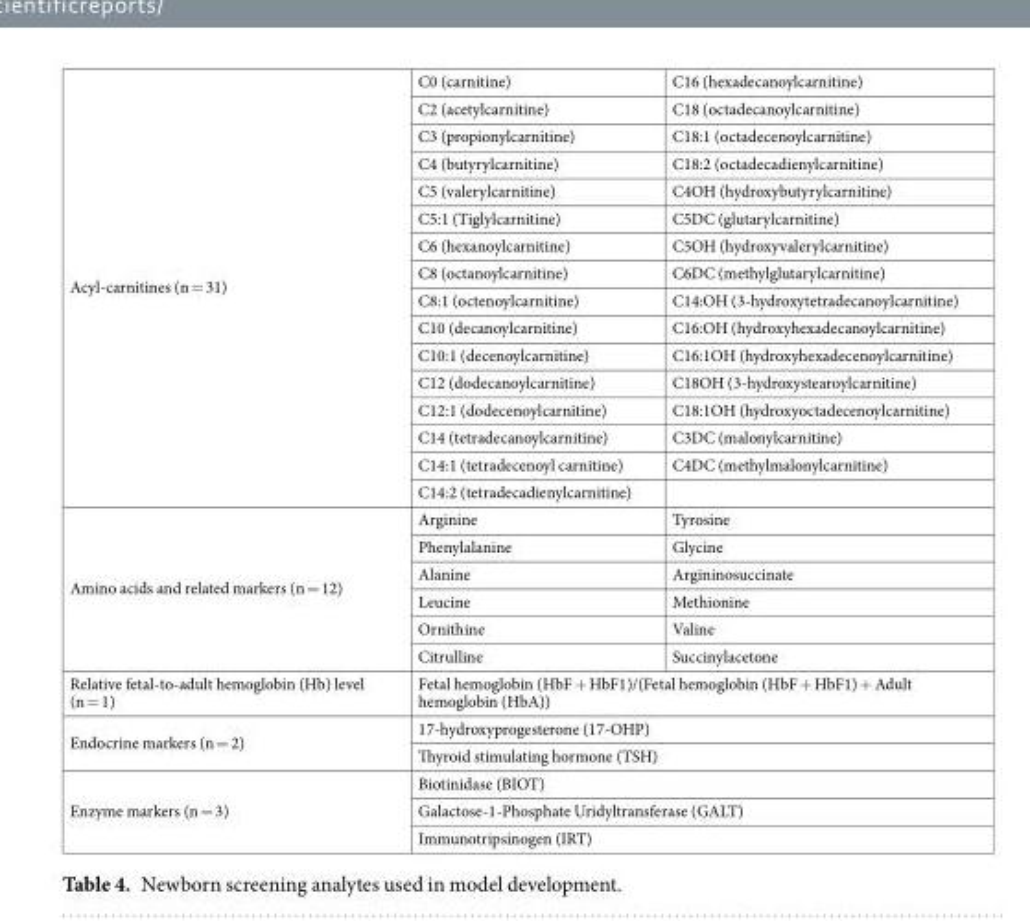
<table><tbody><tr><td rowspan="16">Acyl-carnitines (n = 31)</td><td>C0 (carnitine)</td><td>C16 (hexadecanoylcarnitine)</td></tr><tr><td>C2 (acetylcarnitine)</td><td>C18 (octadecanoylcarnitine)</td></tr><tr><td>C3 (propionylcarnitine)</td><td>C18:1 (octadecenoylcarnitine)</td></tr><tr><td>C4 (butyrylcarnitine)</td><td>C18:2 (octadecadienylcarnitine)</td></tr><tr><td>C5 (valerylcarnitine)</td><td>C4OH (hydroxybutyrylcarnitine)</td></tr><tr><td>C5:1 (Tiglylcarnitine)</td><td>C5DC (glutarylcarnitine)</td></tr><tr><td>C6 (hexanoylcarnitine)</td><td>C5OH (hydroxyvalerylcarnitine)</td></tr><tr><td>C8 (octanoylcarnitine)</td><td>C6DC (methylglutarylcarnitine)</td></tr><tr><td>C8:1 (octenoylcarnitine)</td><td>C14:OH (3-hydroxytetradecanoylcarnitine)</td></tr><tr><td>C10 (decanoylcarnitine)</td><td>C16:OH (hydroxyhexadecanoylcarnitine)</td></tr><tr><td>C10:1 (decenoylcarnitine)</td><td>C16:1OH (hydroxyhexadecenoylcarnitine)</td></tr><tr><td>C12 (dodecanoylcarnitine)</td><td>C18OH (3-hydroxystearoylcarnitine)</td></tr><tr><td>C12:1 (dodecenoylcarnitine)</td><td>C18:1OH (hydroxyoctadecenoylcarnitine)</td></tr><tr><td>C14 (tetradecanoylcarnitine)</td><td>C3DC (malonylcarnitine)</td></tr><tr><td>C14:1 (tetradecenoyl carnitine)</td><td>C4DC (methylmalonylcarnitine)</td></tr><tr><td>C14:2 (tetradecadienylcarnitine)</td><td></td></tr><tr><td rowspan="6">Amino acids and related markers (n = 12)</td><td>Arginine</td><td>Tyrosine</td></tr><tr><td>Phenylalanine</td><td>Glycine</td></tr><tr><td>Alanine</td><td>Argininosuccinate</td></tr><tr><td>Leucine</td><td>Methionine</td></tr><tr><td>Ornithine</td><td>Valine</td></tr><tr><td>Citrulline</td><td>Succinylacetone</td></tr><tr><td>Relative fetal-to-adult hemoglobin (Hb) level (n = 1)</td><td colspan="2">Fetal hemoglobin (HbF + HbF1)/(Fetal hemoglobin (HbF + HbF1) + Adult hemoglobin (HbA))</td></tr><tr><td rowspan="2">Endocrine markers (n = 2)</td><td colspan="2">17-hydroxyprogesterone (17-OHP)</td></tr><tr><td colspan="2">Thyroid stimulating hormone (TSH)</td></tr><tr><td rowspan="3">Enzyme markers (n = 3)</td><td colspan="2">Biotinidase (BIOT)</td></tr><tr><td colspan="2">Galactose-1-Phosphate Uridyltransferase (GALT)</td></tr><tr><td colspan="2">Immunotripsinogen (IRT)</td></tr></tbody></table>